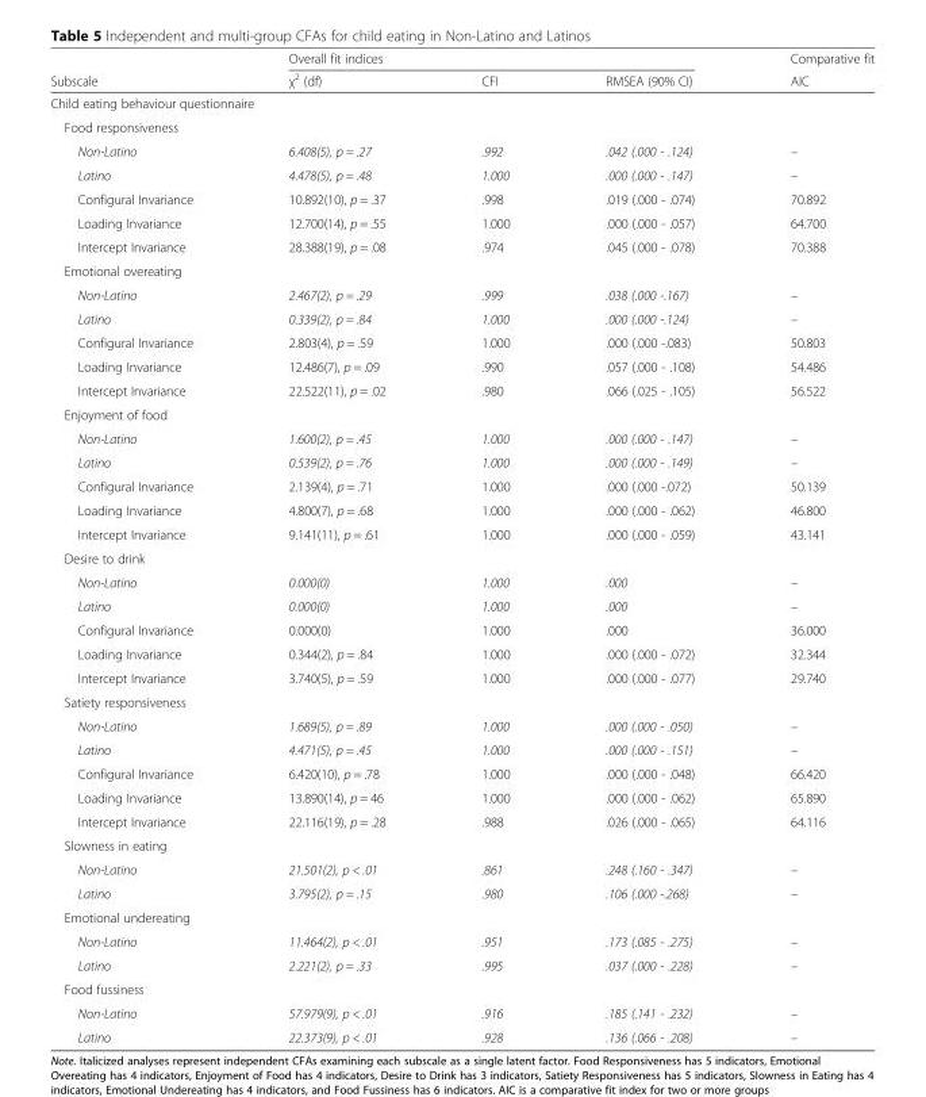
<table><thead><tr><td rowspan="2">Subscale</td><td colspan="3">Overall fit indices</td><td rowspan="2">Comparative fit AIC</td></tr><tr><td>χ<sup>2</sup> (df)</td><td>CFI</td><td>RMSEA (90% CI)</td></tr></thead><tbody><tr><td colspan="5">Child eating behaviour questionnaire</td></tr><tr><td colspan="5">Food responsiveness</td></tr><tr><td>Non-Latino</td><td>6.408(5), p = .27</td><td>.992</td><td>.042 (.000 - .124)</td><td>–</td></tr><tr><td>Latino</td><td>4.478(5), p = .48</td><td>1.000</td><td>.000 (.000 - .147)</td><td>–</td></tr><tr><td>Configural Invariance</td><td>10.892(10), p = .37</td><td>.998</td><td>.019 (.000 - .074)</td><td>70.892</td></tr><tr><td>Loading Invariance</td><td>12.700(14), p = .55</td><td>1.000</td><td>.000 (.000 - .057)</td><td>64.700</td></tr><tr><td>Intercept Invariance</td><td>28.388(19), p = .08</td><td>.974</td><td>.045 (.000 - .078)</td><td>70.388</td></tr><tr><td colspan="5">Emotional overeating</td></tr><tr><td>Non-Latino</td><td>2.467(2), p = .29</td><td>.999</td><td>.038 (.000 -.167)</td><td>–</td></tr><tr><td>Latino</td><td>0.339(2), p = .84</td><td>1.000</td><td>.000 (.000 -.124)</td><td>–</td></tr><tr><td>Configural Invariance</td><td>2.803(4), p = .59</td><td>1.000</td><td>.000 (.000 -.083)</td><td>50.803</td></tr><tr><td>Loading Invariance</td><td>12.486(7), p = .09</td><td>.990</td><td>.057 (.000 - .108)</td><td>54.486</td></tr><tr><td>Intercept Invariance</td><td>22.522(11), p = .02</td><td>.980</td><td>.066 (.025 - .105)</td><td>56.522</td></tr><tr><td colspan="5">Enjoyment of food</td></tr><tr><td>Non-Latino</td><td>1.600(2), p = .45</td><td>1.000</td><td>.000 (.000 - .147)</td><td>–</td></tr><tr><td>Latino</td><td>0.539(2), p = .76</td><td>1.000</td><td>.000 (.000 - .149)</td><td>–</td></tr><tr><td>Configural Invariance</td><td>2.139(4), p = .71</td><td>1.000</td><td>.000 (.000 -.072)</td><td>50.139</td></tr><tr><td>Loading Invariance</td><td>4.800(7), p = .68</td><td>1.000</td><td>.000 (.000 - .062)</td><td>46.800</td></tr><tr><td>Intercept Invariance</td><td>9.141(11), p = .61</td><td>1.000</td><td>.000 (.000 - .059)</td><td>43.141</td></tr><tr><td colspan="5">Desire to drink</td></tr><tr><td>Non-Latino</td><td>0.000(0)</td><td>1.000</td><td>.000</td><td>–</td></tr><tr><td>Latino</td><td>0.000(0)</td><td>1.000</td><td>.000</td><td>–</td></tr><tr><td>Configural Invariance</td><td>0.000(0)</td><td>1.000</td><td>.000</td><td>36.000</td></tr><tr><td>Loading Invariance</td><td>0.344(2), p = .84</td><td>1.000</td><td>.000 (.000 - .072)</td><td>32.344</td></tr><tr><td>Intercept Invariance</td><td>3.740(5), p = .59</td><td>1.000</td><td>.000 (.000 - .077)</td><td>29.740</td></tr><tr><td colspan="5">Satiety responsiveness</td></tr><tr><td>Non-Latino</td><td>1.689(5), p = .89</td><td>1.000</td><td>.000 (.000 - .050)</td><td>–</td></tr><tr><td>Latino</td><td>4.471(5), p = .45</td><td>1.000</td><td>.000 (.000 - .151)</td><td>–</td></tr><tr><td>Configural Invariance</td><td>6.420(10), p = .78</td><td>1.000</td><td>.000 (.000 - .048)</td><td>66.420</td></tr><tr><td>Loading Invariance</td><td>13.890(14), p = 46</td><td>1.000</td><td>.000 (.000 - .062)</td><td>65.890</td></tr><tr><td>Intercept Invariance</td><td>22.116(19), p = .28</td><td>.988</td><td>.026 (.000 - .065)</td><td>64.116</td></tr><tr><td colspan="5">Slowness in eating</td></tr><tr><td>Non-Latino</td><td>21.501(2), p &lt; .01</td><td>.861</td><td>.248 (.160 - .347)</td><td>–</td></tr><tr><td>Latino</td><td>3.795(2), p = .15</td><td>.980</td><td>.106 (.000 -.268)</td><td>–</td></tr><tr><td colspan="5">Emotional undereating</td></tr><tr><td>Non-Latino</td><td>11.464(2), p &lt; .01</td><td>.951</td><td>.173 (.085 - .275)</td><td>–</td></tr><tr><td>Latino</td><td>2.221(2), p = .33</td><td>.995</td><td>.037 (.000 - .228)</td><td>–</td></tr><tr><td colspan="5">Food fussiness</td></tr><tr><td>Non-Latino</td><td>57.979(9), p &lt; .01</td><td>.916</td><td>.185 (.141 - .232)</td><td>–</td></tr><tr><td>Latino</td><td>22.373(9), p &lt; .01</td><td>.928</td><td>.136 (.066 - .208)</td><td>–</td></tr></tbody></table>